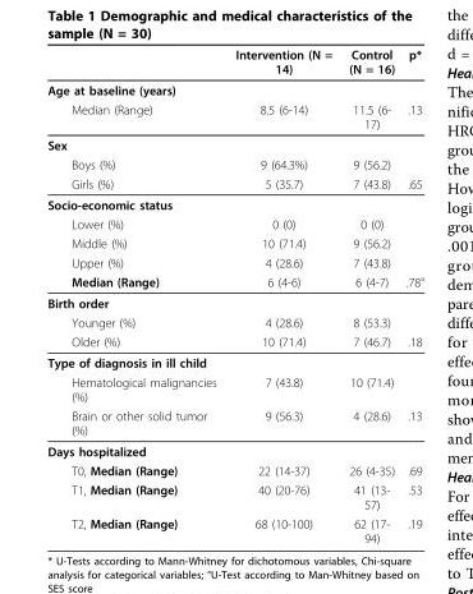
<table><thead><tr><td></td><td>Intervention (N = 14)</td><td>Control (N = 16)</td><td>p*</td></tr></thead><tbody><tr><td colspan="4">Age at baseline (years)</td></tr><tr><td>Median (Range)</td><td>8.5 (6-14)</td><td>11.5 (6- 17)</td><td>.13</td></tr><tr><td colspan="4">Sex</td></tr><tr><td>Boys (%)</td><td>9 (64.3%)</td><td>9 (56.2)</td><td></td></tr><tr><td>Girls (%)</td><td>5 (35.7)</td><td>7 (43.8)</td><td>.65</td></tr><tr><td colspan="4">Socio-economic status</td></tr><tr><td>Lower (%)</td><td>0 (0)</td><td>0 (0)</td><td></td></tr><tr><td>Middle (%)</td><td>10 (71.4)</td><td>9 (56.2)</td><td></td></tr><tr><td>Upper (%)</td><td>4 (28.6)</td><td>7 (43.8)</td><td></td></tr><tr><td>Median (Range)</td><td>6 (4-6)</td><td>6 (4-7)</td><td>.78°</td></tr><tr><td colspan="4">Birth order</td></tr><tr><td>Younger (%)</td><td>4 (28.6)</td><td>8 (53.3)</td><td></td></tr><tr><td>Older (%)</td><td>10 (71.4)</td><td>7 (46.7)</td><td>.18</td></tr><tr><td colspan="4">Type of diagnosis in ill child</td></tr><tr><td>Hematological malignancies (%)</td><td>7 (43.8)</td><td>10 (71.4)</td><td></td></tr><tr><td>Brain or other solid tumor (%)</td><td>9 (56.3)</td><td>4 (28.6)</td><td>.13</td></tr><tr><td colspan="4">Days hospitalized</td></tr><tr><td>T0, Median (Range)</td><td>22 (14-37)</td><td>26 (4-35)</td><td>.69</td></tr><tr><td>T1, Median (Range)</td><td>40 (20-76)</td><td>41 (13- 57)</td><td>.53</td></tr><tr><td>T2, Median (Range)</td><td>68 (10-100)</td><td>62 (17- 94)</td><td>.19</td></tr></tbody></table>